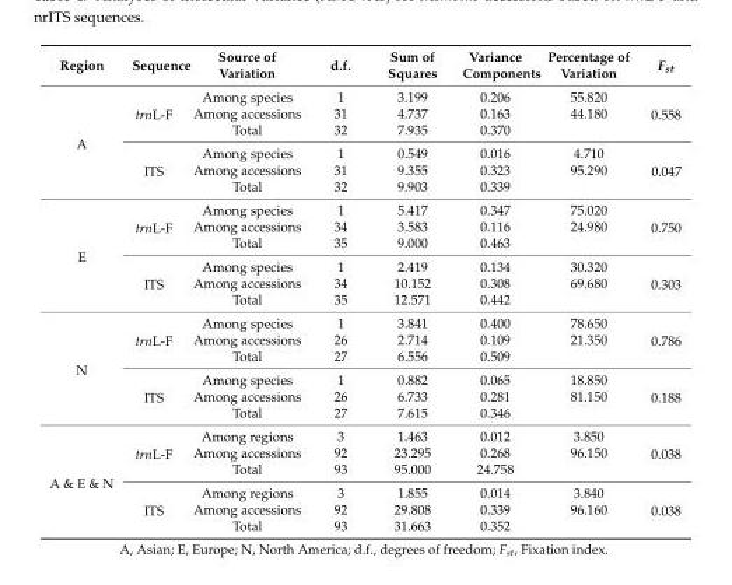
<table><thead><tr><td>Region</td><td>Sequence</td><td>Source of Variation</td><td>d.f.</td><td>Sum of Squares</td><td>Variance Components</td><td>Percentage of Variation</td><td>F<sub>st</sub></td></tr></thead><tbody><tr><td rowspan="6">A</td><td rowspan="3">trnL-F</td><td>Among species</td><td>1</td><td>3.199</td><td>0.206</td><td>55.820</td><td rowspan="3">0.558</td></tr><tr><td>Among accessions</td><td>31</td><td>4.737</td><td>0.163</td><td>44.180</td></tr><tr><td>Total</td><td>32</td><td>7.935</td><td>0.370</td><td></td></tr><tr><td rowspan="3">ITS</td><td>Among species</td><td>1</td><td>0.549</td><td>0.016</td><td>4.710</td><td rowspan="3">0.047</td></tr><tr><td>Among accessions</td><td>31</td><td>9.355</td><td>0.323</td><td>95.290</td></tr><tr><td>Total</td><td>32</td><td>9.903</td><td>0.339</td><td></td></tr><tr><td rowspan="6">E</td><td rowspan="3">trnL-F</td><td>Among species</td><td>1</td><td>5.417</td><td>0.347</td><td>75.020</td><td rowspan="3">0.750</td></tr><tr><td>Among accessions</td><td>34</td><td>3.583</td><td>0.116</td><td>24.980</td></tr><tr><td>Total</td><td>35</td><td>9.000</td><td>0.463</td><td></td></tr><tr><td rowspan="3">ITS</td><td>Among species</td><td>1</td><td>2.419</td><td>0.134</td><td>30.320</td><td rowspan="3">0.303</td></tr><tr><td>Among accessions</td><td>34</td><td>10.152</td><td>0.308</td><td>69.680</td></tr><tr><td>Total</td><td>35</td><td>12.571</td><td>0.442</td><td></td></tr><tr><td rowspan="6">N</td><td rowspan="3">trnL-F</td><td>Among species</td><td>1</td><td>3.841</td><td>0.400</td><td>78.650</td><td rowspan="3">0.786</td></tr><tr><td>Among accessions</td><td>26</td><td>2.714</td><td>0.109</td><td>21.350</td></tr><tr><td>Total</td><td>27</td><td>6.556</td><td>0.509</td><td></td></tr><tr><td rowspan="3">ITS</td><td>Among species</td><td>1</td><td>0.882</td><td>0.065</td><td>18.850</td><td rowspan="3">0.188</td></tr><tr><td>Among accessions</td><td>26</td><td>6.733</td><td>0.281</td><td>81.150</td></tr><tr><td>Total</td><td>27</td><td>7.615</td><td>0.346</td><td></td></tr><tr><td rowspan="6">A &amp; E &amp; N</td><td rowspan="3">trnL-F</td><td>Among regions</td><td>3</td><td>1.463</td><td>0.012</td><td>3.850</td><td rowspan="3">0.038</td></tr><tr><td>Among accessions</td><td>92</td><td>23.295</td><td>0.268</td><td>96.150</td></tr><tr><td>Total</td><td>93</td><td>95.000</td><td>24.758</td><td></td></tr><tr><td rowspan="3">ITS</td><td>Among regions</td><td>3</td><td>1.855</td><td>0.014</td><td>3.840</td><td rowspan="3">0.038</td></tr><tr><td>Among accessions</td><td>92</td><td>29.808</td><td>0.339</td><td>96.160</td></tr><tr><td>Total</td><td>93</td><td>31.663</td><td>0.352</td><td></td></tr></tbody></table>